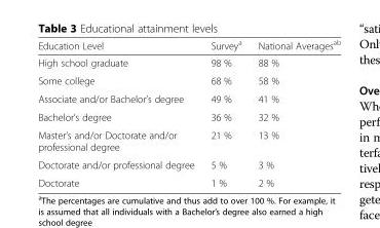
<table><thead><tr><td>Education Level</td><td>Survey<sup>a</sup></td><td>National Averages<sup>ab</sup></td></tr></thead><tbody><tr><td>High school graduate</td><td>98 %</td><td>88 %</td></tr><tr><td>Some college</td><td>68 %</td><td>58 %</td></tr><tr><td>Associate and/or Bachelor’s degree</td><td>49 %</td><td>41 %</td></tr><tr><td>Bachelor’s degree</td><td>36 %</td><td>32 %</td></tr><tr><td>Master’s and/or Doctorate and/or professional degree</td><td>21 %</td><td>13 %</td></tr><tr><td>Doctorate and/or professional degree</td><td>5 %</td><td>3 %</td></tr><tr><td>Doctorate</td><td>1 %</td><td>2 %</td></tr></tbody></table>